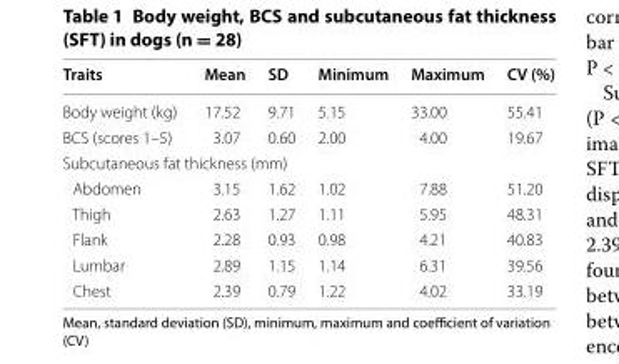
<table><thead><tr><td>Traits</td><td>Mean</td><td>SD</td><td>Minimum</td><td>Maximum</td><td>CV (%)</td></tr></thead><tbody><tr><td>Body weight (kg)</td><td>17.52</td><td>9.71</td><td>5.15</td><td>33.00</td><td>55.41</td></tr><tr><td>BCS (scores 1–5)</td><td>3.07</td><td>0.60</td><td>2.00</td><td>4.00</td><td>19.67</td></tr><tr><td colspan="6">Subcutaneous fat thickness (mm)</td></tr><tr><td>Abdomen</td><td>3.15</td><td>1.62</td><td>1.02</td><td>7.88</td><td>51.20</td></tr><tr><td>Thigh</td><td>2.63</td><td>1.27</td><td>1.11</td><td>5.95</td><td>48.31</td></tr><tr><td>Flank</td><td>2.28</td><td>0.93</td><td>0.98</td><td>4.21</td><td>40.83</td></tr><tr><td>Lumbar</td><td>2.89</td><td>1.15</td><td>1.14</td><td>6.31</td><td>39.56</td></tr><tr><td>Chest</td><td>2.39</td><td>0.79</td><td>1.22</td><td>4.02</td><td>33.19</td></tr></tbody></table>